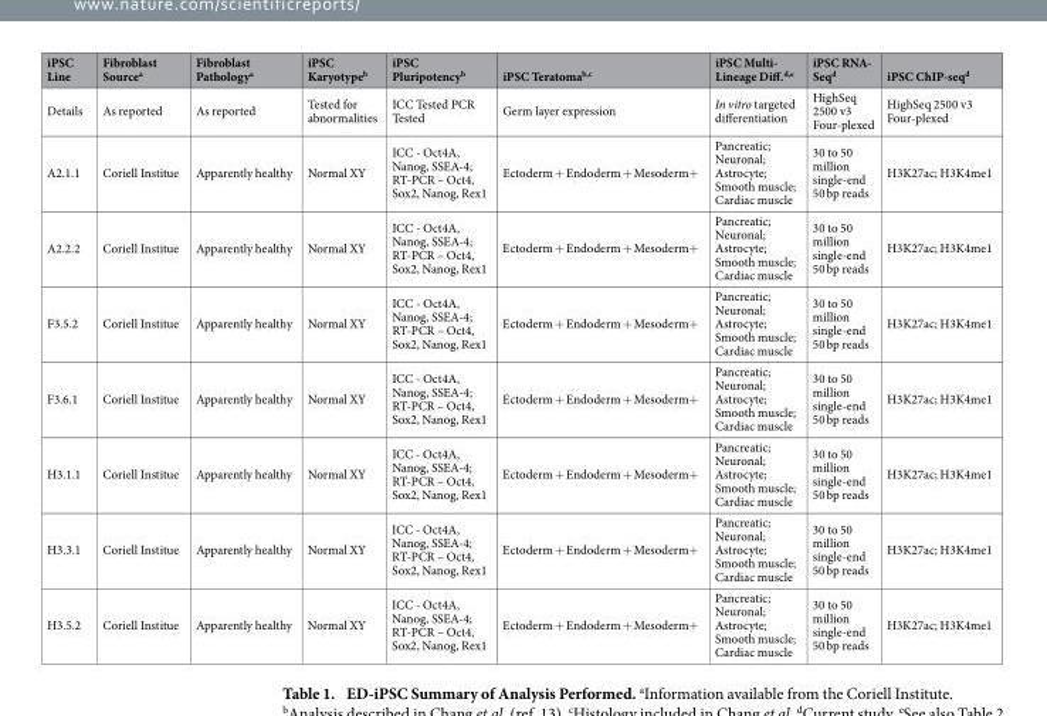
<table><thead><tr><td>iPSC Line</td><td>Fibroblast Source<sup>a</sup></td><td>Fibroblast Pathology<sup>a</sup></td><td>iPSC Karyotype<sup>b</sup></td><td>iPSC Pluripotency<sup>b</sup></td><td>iPSC Teratoma<sup>b</sup>,<sup>c</sup></td><td>iPSC Multi- Lineage Diff.<sup>d</sup>,<sup>e</sup></td><td>iPSC RNA- Seq<sup>d</sup></td><td>iPSC ChIP-seq<sup>d</sup></td></tr></thead><tbody><tr><td>Details</td><td>As reported</td><td>As reported</td><td>Tested for abnormalities</td><td>ICC Tested PCR Tested</td><td>Germ layer expression</td><td>In vitro targeted differentiation</td><td>HighSeq 2500 v3 Four-plexed</td><td>HighSeq 2500 v3 Four-plexed</td></tr><tr><td>A2.1.1</td><td>Coriell Institue</td><td>Apparently healthy</td><td>Normal XY</td><td>ICC - Oct4A, Nanog, SSEA-4; RT-PCR – Oct4, Sox2, Nanog, Rex1</td><td>Ectoderm + Endoderm + Mesoderm+</td><td>Pancreatic; Neuronal; Astrocyte; Smooth muscle; Cardiac muscle</td><td>30 to 50 million single-end 50 bp reads</td><td>H3K27ac; H3K4me1</td></tr><tr><td>A2.2.2</td><td>Coriell Institue</td><td>Apparently healthy</td><td>Normal XY</td><td>ICC - Oct4A, Nanog, SSEA-4; RT-PCR – Oct4, Sox2, Nanog, Rex1</td><td>Ectoderm + Endoderm + Mesoderm+</td><td>Pancreatic; Neuronal; Astrocyte; Smooth muscle; Cardiac muscle</td><td>30 to 50 million single-end 50 bp reads</td><td>H3K27ac; H3K4me1</td></tr><tr><td>F3.5.2</td><td>Coriell Institue</td><td>Apparently healthy</td><td>Normal XY</td><td>ICC - Oct4A, Nanog, SSEA-4; RT-PCR – Oct4, Sox2, Nanog, Rex1</td><td>Ectoderm + Endoderm + Mesoderm+</td><td>Pancreatic; Neuronal; Astrocyte; Smooth muscle; Cardiac muscle</td><td>30 to 50 million single-end 50 bp reads</td><td>H3K27ac; H3K4me1</td></tr><tr><td>F3.6.1</td><td>Coriell Institue</td><td>Apparently healthy</td><td>Normal XY</td><td>ICC - Oct4A, Nanog, SSEA-4; RT-PCR – Oct4, Sox2, Nanog, Rex1</td><td>Ectoderm + Endoderm + Mesoderm+</td><td>Pancreatic; Neuronal; Astrocyte; Smooth muscle; Cardiac muscle</td><td>30 to 50 million single-end 50 bp reads</td><td>H3K27ac; H3K4me1</td></tr><tr><td>H3.1.1</td><td>Coriell Institue</td><td>Apparently healthy</td><td>Normal XY</td><td>ICC - Oct4A, Nanog, SSEA-4; RT-PCR – Oct4, Sox2, Nanog, Rex1</td><td>Ectoderm + Endoderm + Mesoderm+</td><td>Pancreatic; Neuronal; Astrocyte; Smooth muscle; Cardiac muscle</td><td>30 to 50 million single-end 50 bp reads</td><td>H3K27ac; H3K4me1</td></tr><tr><td>H3.3.1</td><td>Coriell Institue</td><td>Apparently healthy</td><td>Normal XY</td><td>ICC - Oct4A, Nanog, SSEA-4; RT-PCR – Oct4, Sox2, Nanog, Rex1</td><td>Ectoderm + Endoderm + Mesoderm+</td><td>Pancreatic; Neuronal; Astrocyte; Smooth muscle; Cardiac muscle</td><td>30 to 50 million single-end 50 bp reads</td><td>H3K27ac; H3K4me1</td></tr><tr><td>H3.5.2</td><td>Coriell Institue</td><td>Apparently healthy</td><td>Normal XY</td><td>ICC - Oct4A, Nanog, SSEA-4; RT-PCR – Oct4, Sox2, Nanog, Rex1</td><td>Ectoderm + Endoderm + Mesoderm+</td><td>Pancreatic; Neuronal; Astrocyte; Smooth muscle; Cardiac muscle</td><td>30 to 50 million single-end 50 bp reads</td><td>H3K27ac; H3K4me1</td></tr></tbody></table>